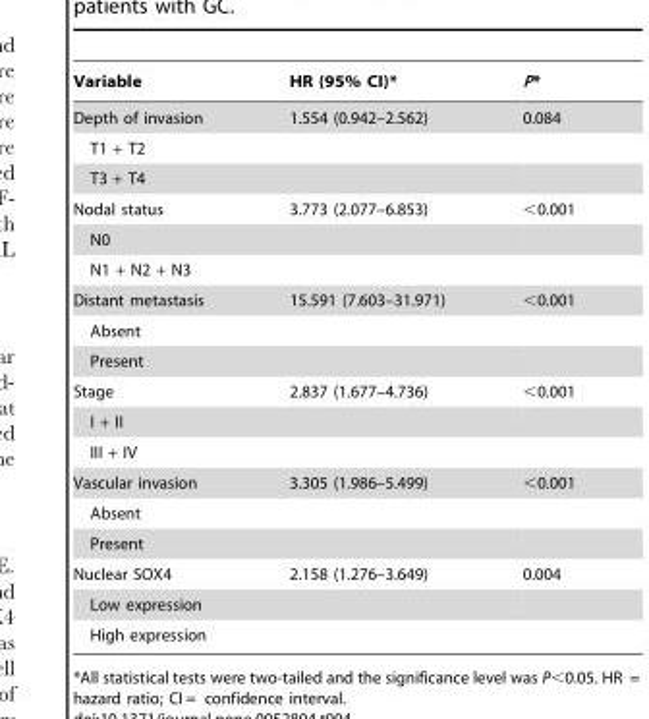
<table><thead><tr><td>Variable</td><td>HR (95% CI)*</td><td>P*</td></tr></thead><tbody><tr><td>Depth of invasion</td><td>1.554 (0.942–2.562)</td><td>0.084</td></tr><tr><td colspan="3">T1 + T2</td></tr><tr><td colspan="3">T3 + T4</td></tr><tr><td>Nodal status</td><td>3.773 (2.077–6.853)</td><td>&lt;0.001</td></tr><tr><td colspan="3">N0</td></tr><tr><td colspan="3">N1 + N2 + N3</td></tr><tr><td>Distant metastasis</td><td>15.591 (7.603–31.971)</td><td>&lt;0.001</td></tr><tr><td colspan="3">Absent</td></tr><tr><td colspan="3">Present</td></tr><tr><td>Stage</td><td>2.837 (1.677–4.736)</td><td>&lt;0.001</td></tr><tr><td colspan="3">I + II</td></tr><tr><td colspan="3">III + IV</td></tr><tr><td>Vascular invasion</td><td>3.305 (1.986–5.499)</td><td>&lt;0.001</td></tr><tr><td colspan="3">Absent</td></tr><tr><td colspan="3">Present</td></tr><tr><td>Nuclear SOX4</td><td>2.158 (1.276–3.649)</td><td>0.004</td></tr><tr><td colspan="3">Low expression</td></tr><tr><td>High expression</td><td></td><td></td></tr></tbody></table>